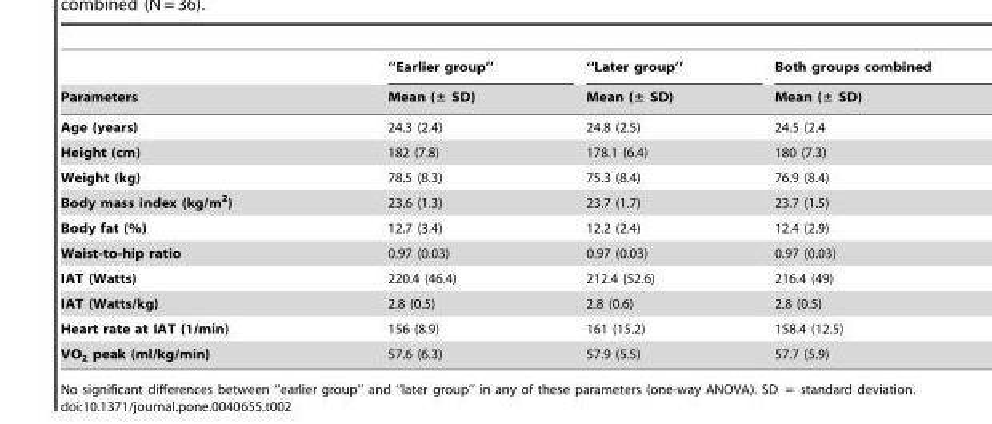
<table><thead><tr><td rowspan="2">Parameters</td><td rowspan="2">‘‘Earlier group’’ Mean (± SD)</td><td rowspan="2">‘‘Later group’’ Mean (± SD)</td><td rowspan="2">Both groups combined Mean (± SD)</td></tr><tr></tr></thead><tbody><tr><td>Age (years)</td><td>24.3 (2.4)</td><td>24.8 (2.5)</td><td>24.5 (2.4</td></tr><tr><td>Height (cm)</td><td>182 (7.8)</td><td>178.1 (6.4)</td><td>180 (7.3)</td></tr><tr><td>Weight (kg)</td><td>78.5 (8.3)</td><td>75.3 (8.4)</td><td>76.9 (8.4)</td></tr><tr><td>Body mass index (kg/m<sup>2</sup>)</td><td>23.6 (1.3)</td><td>23.7 (1.7)</td><td>23.7 (1.5)</td></tr><tr><td>Body fat (%)</td><td>12.7 (3.4)</td><td>12.2 (2.4)</td><td>12.4 (2.9)</td></tr><tr><td>Waist-to-hip ratio</td><td>0.97 (0.03)</td><td>0.97 (0.03)</td><td>0.97 (0.03)</td></tr><tr><td>IAT (Watts)</td><td>220.4 (46.4)</td><td>212.4 (52.6)</td><td>216.4 (49)</td></tr><tr><td>IAT (Watts/kg)</td><td>2.8 (0.5)</td><td>2.8 (0.6)</td><td>2.8 (0.5)</td></tr><tr><td>Heart rate at IAT (1/min)</td><td>156 (8.9)</td><td>161 (15.2)</td><td>158.4 (12.5)</td></tr><tr><td>VO<sub>2</sub> peak (ml/kg/min)</td><td>57.6 (6.3)</td><td>57.9 (5.5)</td><td>57.7 (5.9)</td></tr></tbody></table>